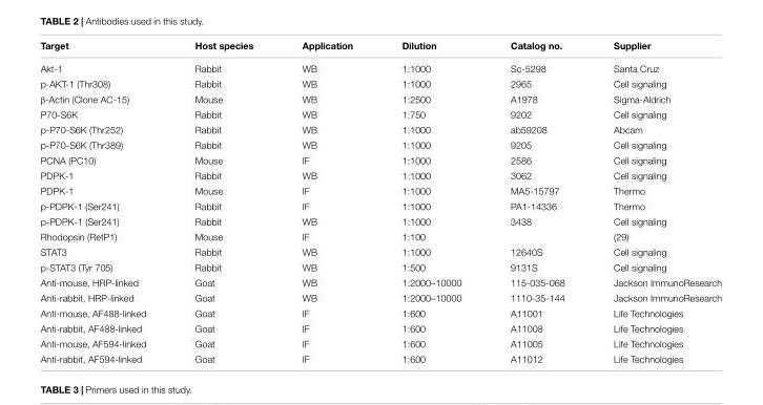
<table><thead><tr><td>Target</td><td>Host species</td><td>Application</td><td>Dilution</td><td>Catalog no.</td><td>Supplier</td></tr></thead><tbody><tr><td>Akt-1</td><td>Rabbit</td><td>WB</td><td>1:1000</td><td>Sc-5298</td><td>Santa Cruz</td></tr><tr><td>p-AKT-1 (Thr308)</td><td>Rabbit</td><td>WB</td><td>1:1000</td><td>2965</td><td>Cell signaling</td></tr><tr><td>β-Actin (Clone AC-15)</td><td>Mouse</td><td>WB</td><td>1:2500</td><td>A1978</td><td>Sigma-Aldrich</td></tr><tr><td>P70-S6K</td><td>Rabbit</td><td>WB</td><td>1:750</td><td>9202</td><td>Cell signaling</td></tr><tr><td>p-P70-S6K (Thr252)</td><td>Rabbit</td><td>WB</td><td>1:1000</td><td>ab59208</td><td>Abcam</td></tr><tr><td>p-P70-S6K (Thr389)</td><td>Rabbit</td><td>WB</td><td>1:1000</td><td>9205</td><td>Cell signaling</td></tr><tr><td>PCNA (PC10)</td><td>Mouse</td><td>IF</td><td>1:1000</td><td>2586</td><td>Cell signaling</td></tr><tr><td>PDPK-1</td><td>Rabbit</td><td>WB</td><td>1:1000</td><td>3062</td><td>Cell signaling</td></tr><tr><td>PDPK-1</td><td>Mouse</td><td>IF</td><td>1:1000</td><td>MA5-15797</td><td>Thermo</td></tr><tr><td>p-PDPK-1 (Ser241)</td><td>Rabbit</td><td>IF</td><td>1:1000</td><td>PA1-14336</td><td>Thermo</td></tr><tr><td>p-PDPK-1 (Ser241)</td><td>Rabbit</td><td>WB</td><td>1:1000</td><td>3438</td><td>Cell signaling</td></tr><tr><td>Rhodopsin (RetP1)</td><td>Mouse</td><td>IF</td><td>1:100</td><td></td><td>(29)</td></tr><tr><td>STAT3</td><td>Rabbit</td><td>WB</td><td>1:1000</td><td>12640S</td><td>Cell signaling</td></tr><tr><td>p-STAT3 (Tyr 705)</td><td>Rabbit</td><td>WB</td><td>1:500</td><td>9131S</td><td>Cell signaling</td></tr><tr><td>Anti-mouse, HRP-linked</td><td>Goat</td><td>WB</td><td>1:2000–10000</td><td>115-035-068</td><td>Jackson ImmunoResearch</td></tr><tr><td>Anti-rabbit, HRP-linked</td><td>Goat</td><td>WB</td><td>1:2000–10000</td><td>1110-35-144</td><td>Jackson ImmunoResearch</td></tr><tr><td>Anti-mouse, AF488-linked</td><td>Goat</td><td>IF</td><td>1:600</td><td>A11001</td><td>Life Technologies</td></tr><tr><td>Anti-rabbit, AF488-linked</td><td>Goat</td><td>IF</td><td>1:600</td><td>A11008</td><td>Life Technologies</td></tr><tr><td>Anti-mouse, AF594-linked</td><td>Goat</td><td>IF</td><td>1:600</td><td>A11005</td><td>Life Technologies</td></tr><tr><td>Anti-rabbit, AF594-linked</td><td>Goat</td><td>IF</td><td>1:600</td><td>A11012</td><td>Life Technologies</td></tr></tbody></table>